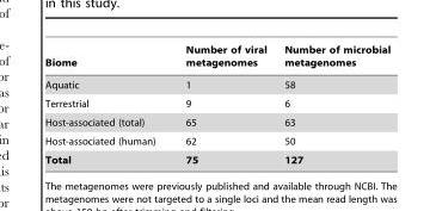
<table><thead><tr><td>Biome</td><td>Number of viral metagenomes</td><td>Number of microbial metagenomes</td></tr></thead><tbody><tr><td>Aquatic</td><td>1</td><td>58</td></tr><tr><td>Terrestrial</td><td>9</td><td>6</td></tr><tr><td>Host-associated (total)</td><td>65</td><td>63</td></tr><tr><td>Host-associated (human)</td><td>62</td><td>50</td></tr><tr><td>Total</td><td>75</td><td>127</td></tr></tbody></table>